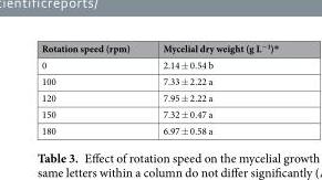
<table><thead><tr><td>Rotation speed (rpm)</td><td>Mycelial dry weight (g L<sup>−1</sup>)*</td></tr></thead><tbody><tr><td>0</td><td>2.14 ± 0.54 b</td></tr><tr><td>100</td><td>7.33 ± 2.22 a</td></tr><tr><td>120</td><td>7.95 ± 2.22 a</td></tr><tr><td>150</td><td>7.32 ± 0.47 a</td></tr><tr><td>180</td><td>6.97 ± 0.58 a</td></tr></tbody></table>